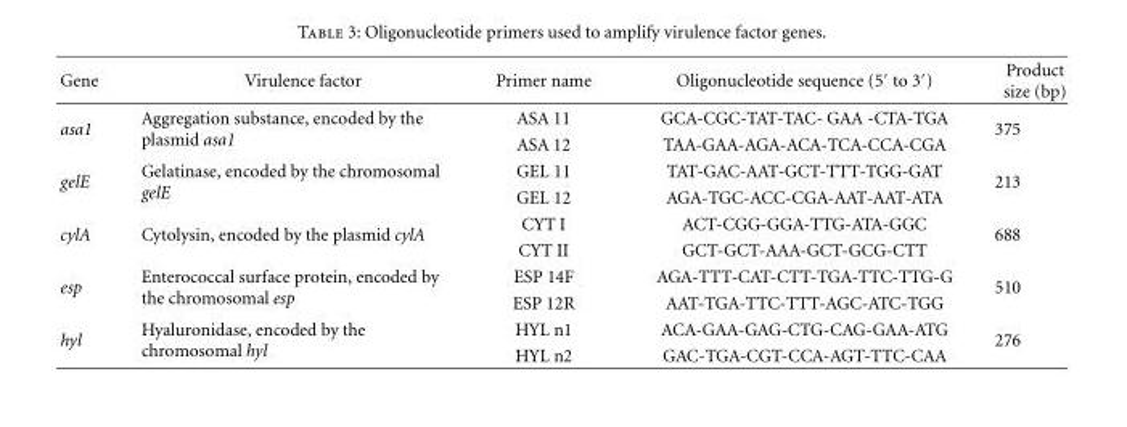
<table><thead><tr><td>Gene</td><td>Virulence factor</td><td>Primer name</td><td>Oligonucleotide sequence (5′ to 3′)</td><td>Product size (bp)</td></tr></thead><tbody><tr><td rowspan="2">asa1</td><td rowspan="2">Aggregation substance, encoded by the plasmid asa1</td><td>ASA 11</td><td>GCA-CGC-TAT-TAC- GAA -CTA-TGA</td><td rowspan="2">375</td></tr><tr><td>ASA 12</td><td>TAA-GAA-AGA-ACA-TCA-CCA-CGA</td></tr><tr><td rowspan="2">gelE</td><td rowspan="2">Gelatinase, encoded by the chromosomal gelE</td><td>GEL 11</td><td>TAT-GAC-AAT-GCT-TTT-TGG-GAT</td><td rowspan="2">213</td></tr><tr><td>GEL 12</td><td>AGA-TGC-ACC-CGA-AAT-AAT-ATA</td></tr><tr><td rowspan="2">cylA</td><td rowspan="2">Cytolysin, encoded by the plasmid cylA</td><td>CYT I</td><td>ACT-CGG-GGA-TTG-ATA-GGC</td><td rowspan="2">688</td></tr><tr><td>CYT II</td><td>GCT-GCT-AAA-GCT-GCG-CTT</td></tr><tr><td rowspan="2">esp</td><td rowspan="2">Enterococcal surface protein, encoded by the chromosomal esp</td><td>ESP 14F</td><td>AGA-TTT-CAT-CTT-TGA-TTC-TTG-G</td><td rowspan="2">510</td></tr><tr><td>ESP 12R</td><td>AAT-TGA-TTC-TTT-AGC-ATC-TGG</td></tr><tr><td rowspan="2">hyl</td><td rowspan="2">Hyaluronidase, encoded by the chromosomal hyl</td><td>HYL n1</td><td>ACA-GAA-GAG-CTG-CAG-GAA-ATG</td><td rowspan="2">276</td></tr><tr><td>HYL n2</td><td>GAC-TGA-CGT-CCA-AGT-TTC-CAA</td></tr></tbody></table>